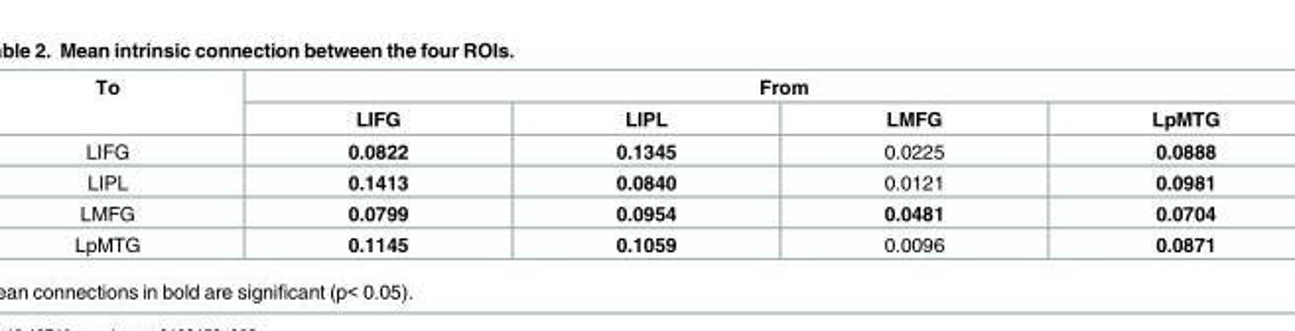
<table><thead><tr><td rowspan="2">To</td><td colspan="4">From</td></tr><tr><td>LIFG</td><td>LIPL</td><td>LMFG</td><td>LpMTG</td></tr></thead><tbody><tr><td>LIFG</td><td>0.0822</td><td>0.1345</td><td>0.0225</td><td>0.0888</td></tr><tr><td>LIPL</td><td>0.1413</td><td>0.0840</td><td>0.0121</td><td>0.0981</td></tr><tr><td>LMFG</td><td>0.0799</td><td>0.0954</td><td>0.0481</td><td>0.0704</td></tr><tr><td>LpMTG</td><td>0.1145</td><td>0.1059</td><td>0.0096</td><td>0.0871</td></tr></tbody></table>